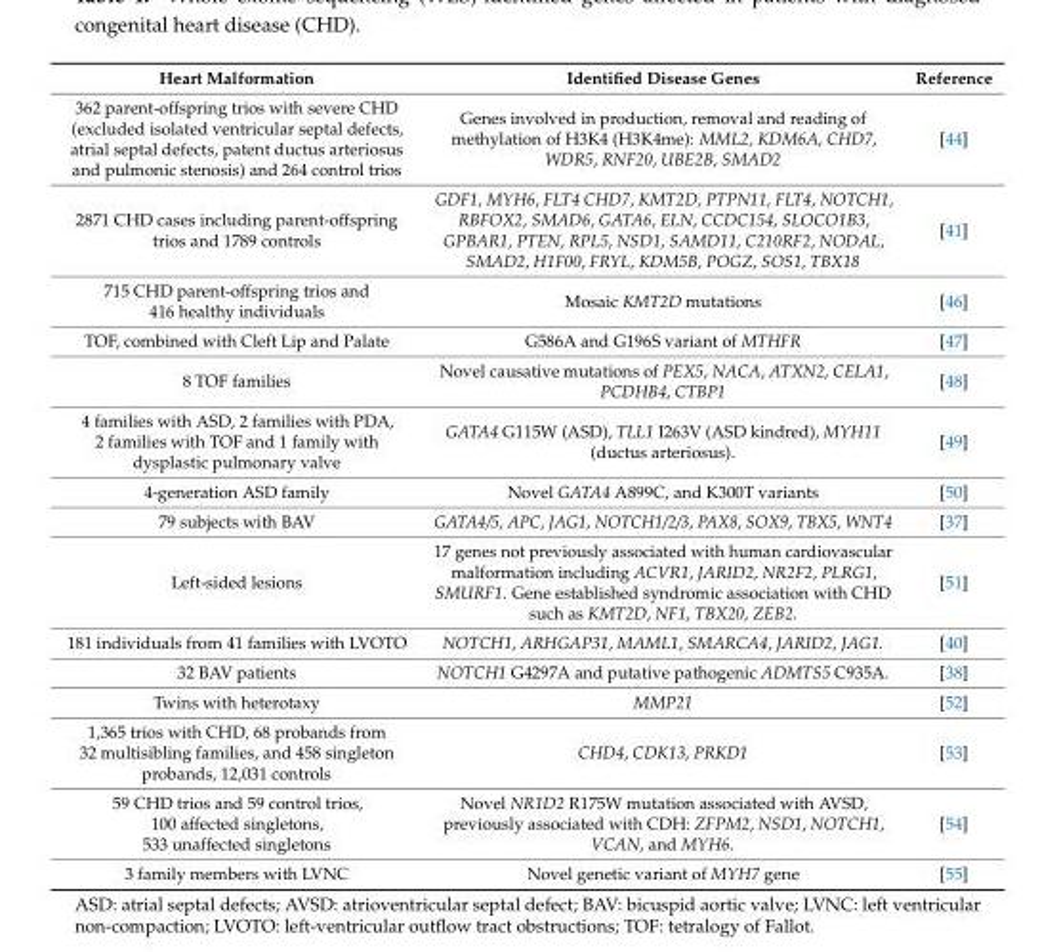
<table><thead><tr><td>Heart Malformation</td><td>Identified Disease Genes</td><td>Reference</td></tr></thead><tbody><tr><td>362 parent-offspring trios with severe CHD (excluded isolated ventricular septal defects, atrial septal defects, patent ductus arteriosus and pulmonic stenosis) and 264 control trios</td><td>Genes involved in production, removal and reading of methylation of H3K4 (H3K4me): MML2, KDM6A, CHD7, WDR5, RNF20, UBE2B, SMAD2</td><td>[44]</td></tr><tr><td>2871 CHD cases including parent-offspring trios and 1789 controls</td><td>GDF1, MYH6, FLT4 CHD7, KMT2D, PTPN11, FLT4, NOTCH1, RBFOX2, SMAD6, GATA6, ELN, CCDC154, SLOCO1B3, GPBAR1, PTEN, RPL5, NSD1, SAMD11, C210RF2, NODAL, SMAD2, H1F00, FRYL, KDM5B, POGZ, SOS1, TBX18</td><td>[41]</td></tr><tr><td>715 CHD parent-offspring trios and 416 healthy individuals</td><td>Mosaic KMT2D mutations</td><td>[46]</td></tr><tr><td>TOF, combined with Cleft Lip and Palate</td><td>G586A and G196S variant of MTHFR</td><td>[47]</td></tr><tr><td>8 TOF families</td><td>Novel causative mutations of PEX5, NACA, ATXN2, CELA1, PCDHB4, CTBP1</td><td>[48]</td></tr><tr><td>4 families with ASD, 2 families with PDA, 2 families with TOF and 1 family with dysplastic pulmonary valve</td><td>GATA4 G115W (ASD), TLL1 I263V (ASD kindred), MYH11 (ductus arteriosus).</td><td>[49]</td></tr><tr><td>4-generation ASD family</td><td>Novel GATA4 A899C, and K300T variants</td><td>[50]</td></tr><tr><td>79 subjects with BAV</td><td>GATA4/5, APC, JAG1, NOTCH1/2/3, PAX8, SOX9, TBX5, WNT4</td><td>[37]</td></tr><tr><td>Left-sided lesions</td><td>17 genes not previously associated with human cardiovascular malformation including ACVR1, JARID2, NR2F2, PLRG1, SMURF1. Gene established syndromic association with CHD such as KMT2D, NF1, TBX20, ZEB2.</td><td>[51]</td></tr><tr><td>181 individuals from 41 families with LVOTO</td><td>NOTCH1, ARHGAP31, MAML1, SMARCA4, JARID2, JAG1.</td><td>[40]</td></tr><tr><td>32 BAV patients</td><td>NOTCH1 G4297A and putative pathogenic ADMTS5 C935A.</td><td>[38]</td></tr><tr><td>Twins with heterotaxy</td><td>MMP21</td><td>[52]</td></tr><tr><td>1,365 trios with CHD, 68 probands from 32 multisibling families, and 458 singleton probands, 12,031 controls</td><td>CHD4, CDK13, PRKD1</td><td>[53]</td></tr><tr><td>59 CHD trios and 59 control trios, 100 affected singletons, 533 unaffected singletons</td><td>Novel NR1D2 R175W mutation associated with AVSD, previously associated with CDH: ZFPM2, NSD1, NOTCH1, VCAN, and MYH6.</td><td>[54]</td></tr><tr><td>3 family members with LVNC</td><td>Novel genetic variant of MYH7 gene</td><td>[55]</td></tr></tbody></table>